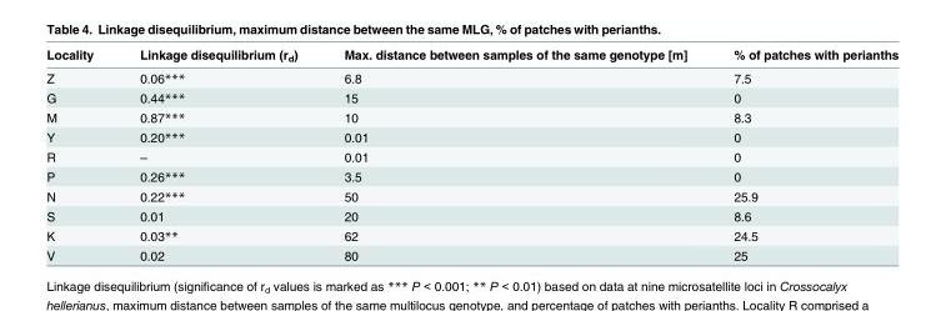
<table><thead><tr><td>Locality</td><td>Linkage disequilibrium (r<sub>d</sub>)</td><td>Max. distance between samples of the same genotype [m]</td><td>% of patches with perianths</td></tr></thead><tbody><tr><td>Z</td><td>0.06***</td><td>6.8</td><td>7.5</td></tr><tr><td>G</td><td>0.44***</td><td>15</td><td>0</td></tr><tr><td>M</td><td>0.87***</td><td>10</td><td>8.3</td></tr><tr><td>Y</td><td>0.20***</td><td>0.01</td><td>0</td></tr><tr><td>R</td><td>–</td><td>0.01</td><td>0</td></tr><tr><td>P</td><td>0.26***</td><td>3.5</td><td>0</td></tr><tr><td>N</td><td>0.22***</td><td>50</td><td>25.9</td></tr><tr><td>S</td><td>0.01</td><td>20</td><td>8.6</td></tr><tr><td>K</td><td>0.03**</td><td>62</td><td>24.5</td></tr><tr><td>V</td><td>0.02</td><td>80</td><td>25</td></tr></tbody></table>